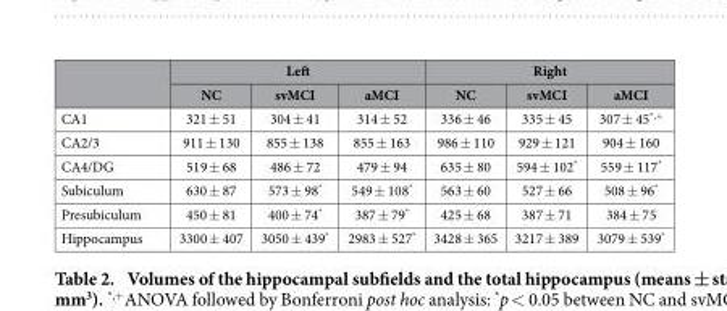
<table><thead><tr><td rowspan="2"></td><td colspan="3">Left</td><td colspan="3">Right</td></tr><tr><td>NC</td><td>svMCI</td><td>aMCI</td><td>NC</td><td>svMCI</td><td>aMCI</td></tr></thead><tbody><tr><td>CA1</td><td>321 ± 51</td><td>304 ± 41</td><td>314 ± 52</td><td>336 ± 46</td><td>335 ± 45</td><td>307 ± 45<sup>*,+</sup></td></tr><tr><td>CA2/3</td><td>911 ± 130</td><td>855 ± 138</td><td>855 ± 163</td><td>986 ± 110</td><td>929 ± 121</td><td>904 ± 160</td></tr><tr><td>CA4/DG</td><td>519 ± 68</td><td>486 ± 72</td><td>479 ± 94</td><td>635 ± 80</td><td>594 ± 102*</td><td>559 ± 117*</td></tr><tr><td>Subiculum</td><td>630 ± 87</td><td>573 ± 98*</td><td>549 ± 108*</td><td>563 ± 60</td><td>527 ± 66</td><td>508 ± 96*</td></tr><tr><td>Presubiculum</td><td>450 ± 81</td><td>400 ± 74*</td><td>387 ± 79*</td><td>425 ± 68</td><td>387 ± 71</td><td>384 ± 75</td></tr><tr><td>Hippocampus</td><td>3300 ± 407</td><td>3050 ± 439*</td><td>2983 ± 527*</td><td>3428 ± 365</td><td>3217 ± 389</td><td>3079 ± 539*</td></tr></tbody></table>